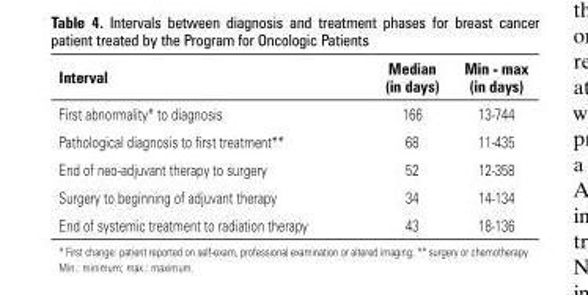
<table><thead><tr><td>interval</td><td>median (in days)</td><td>min - max (in days)</td></tr></thead><tbody><tr><td>First abnormality* to diagnosis</td><td>166</td><td>13-744</td></tr><tr><td>Pathological diagnosis to first treatment**</td><td>68</td><td>11-435</td></tr><tr><td>End of neo-adjuvant therapy to surgery</td><td>52</td><td>12-358</td></tr><tr><td>Surgery to beginning of adjuvant therapy</td><td>34</td><td>14-134</td></tr><tr><td>End of systemic treatment to radiation therapy</td><td>43</td><td>18-136</td></tr></tbody></table>